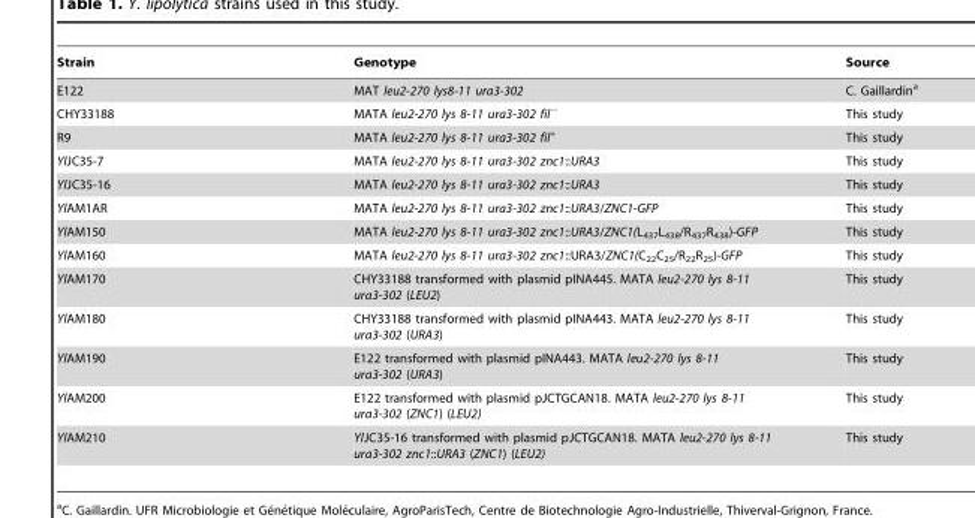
<table><thead><tr><td>Strain</td><td>Genotype</td><td>Source</td></tr></thead><tbody><tr><td>E122</td><td>MAT leu2-270 lys8-11 ura3-302</td><td>C. Gaillardin<sup>a</sup></td></tr><tr><td>CHY33188</td><td>MATA leu2-270 lys 8-11 ura3-302 fil<sup>−</sup></td><td>This study</td></tr><tr><td>R9</td><td>MATA leu2-270 lys 8-11 ura3-302 fil<sup>+</sup></td><td>This study</td></tr><tr><td>YlJC35-7</td><td>MATA leu2-270 lys 8-11 ura3-302 znc1::URA3</td><td>This study</td></tr><tr><td>YlJC35-16</td><td>MATA leu2-270 lys 8-11 ura3-302 znc1::URA3</td><td>This study</td></tr><tr><td>YlAM1AR</td><td>MATA leu2-270 lys 8-11 ura3-302 znc1::URA3/ZNC1-GFP</td><td>This study</td></tr><tr><td>YlAM150</td><td>MATA leu2-270 lys 8-11 ura3-302 znc1::URA3/ZNC1(L<sub>437</sub>L<sub>438</sub>/R<sub>437</sub>R<sub>438</sub>)-GFP</td><td>This study</td></tr><tr><td>YlAM160</td><td>MATA leu2-270 lys 8-11 ura3-302 znc1::URA3/ZNC1(C<sub>22</sub>C<sub>25</sub>/R<sub>22</sub>R<sub>25</sub>)-GFP</td><td>This study</td></tr><tr><td>YlAM170</td><td>CHY33188 transformed with plasmid pINA445. MATA leu2-270 lys 8-11 ura3-302 (LEU2)</td><td>This study</td></tr><tr><td>YlAM180</td><td>CHY33188 transformed with plasmid pINA443. MATA leu2-270 lys 8-11 ura3-302 (URA3)</td><td>This study</td></tr><tr><td>YlAM190</td><td>E122 transformed with plasmid pINA443. MATA leu2-270 lys 8-11 ura3-302 (URA3)</td><td>This study</td></tr><tr><td>YlAM200</td><td>E122 transformed with plasmid pJCTGCAN18. MATA leu2-270 lys 8-11 ura3-302 (ZNC1) (LEU2)</td><td>This study</td></tr><tr><td>YlAM210</td><td>YlJC35-16 transformed with plasmid pJCTGCAN18. MATA leu2-270 lys 8-11 ura3-302 znc1::URA3 (ZNC1) (LEU2)</td><td>This study</td></tr></tbody></table>